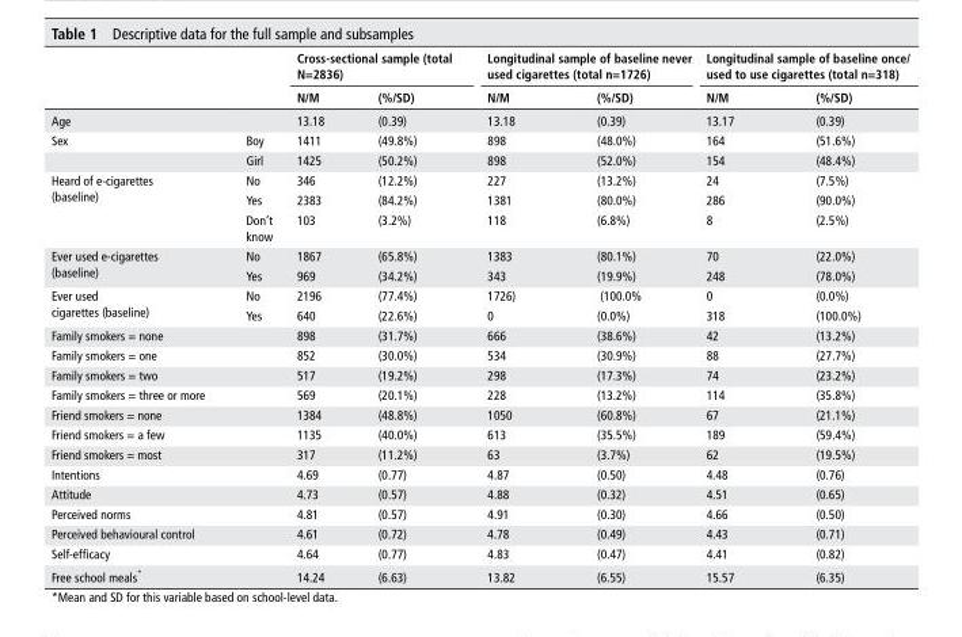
<table><thead><tr><td rowspan="2"></td><td rowspan="2"></td><td colspan="2">Cross-sectional sample (total n=2836)</td><td colspan="2">Longitudinal sample of baseline never used cigarettes (total n=1726)</td><td colspan="2">Longitudinal sample of baseline once/ used to use cigarettes (total n=318)</td></tr><tr><td>n/M</td><td>(%/sd)</td><td>n/M</td><td>(%/sd)</td><td>n/M</td><td>(%/sd)</td></tr></thead><tbody><tr><td>Age</td><td></td><td>13.18</td><td>(0.39)</td><td>13.18</td><td>(0.39)</td><td>13.17</td><td>(0.39)</td></tr><tr><td rowspan="2">Sex</td><td>Boy</td><td>1411</td><td>(49.8%)</td><td>898</td><td>(48.0%)</td><td>164</td><td>(51.6%)</td></tr><tr><td>Girl</td><td>1425</td><td>(50.2%)</td><td>898</td><td>(52.0%)</td><td>154</td><td>(48.4%)</td></tr><tr><td rowspan="3">Heard of e-cigarettes (baseline)</td><td>No</td><td>346</td><td>(12.2%)</td><td>227</td><td>(13.2%)</td><td>24</td><td>(7.5%)</td></tr><tr><td>Yes</td><td>2383</td><td>(84.2%)</td><td>1381</td><td>(80.0%)</td><td>286</td><td>(90.0%)</td></tr><tr><td>Don’t know</td><td>103</td><td>(3.2%)</td><td>118</td><td>(6.8%)</td><td>8</td><td>(2.5%)</td></tr><tr><td rowspan="2">Ever used e-cigarettes (baseline)</td><td>No</td><td>1867</td><td>(65.8%)</td><td>1383</td><td>(80.1%)</td><td>70</td><td>(22.0%)</td></tr><tr><td>Yes</td><td>969</td><td>(34.2%)</td><td>343</td><td>(19.9%)</td><td>248</td><td>(78.0%)</td></tr><tr><td rowspan="2">Ever used cigarettes (baseline)</td><td>No</td><td>2196</td><td>(77.4%)</td><td>1726)</td><td>(100.0%</td><td>0</td><td>(0.0%)</td></tr><tr><td>Yes</td><td>640</td><td>(22.6%)</td><td>0</td><td>(0.0%)</td><td>318</td><td>(100.0%)</td></tr><tr><td>Family smokers = none</td><td></td><td>898</td><td>(31.7%)</td><td>666</td><td>(38.6%)</td><td>42</td><td>(13.2%)</td></tr><tr><td>Family smokers = one</td><td></td><td>852</td><td>(30.0%)</td><td>534</td><td>(30.9%)</td><td>88</td><td>(27.7%)</td></tr><tr><td>Family smokers = two</td><td></td><td>517</td><td>(19.2%)</td><td>298</td><td>(17.3%)</td><td>74</td><td>(23.2%)</td></tr><tr><td>Family smokers = three or more</td><td></td><td>569</td><td>(20.1%)</td><td>228</td><td>(13.2%)</td><td>114</td><td>(35.8%)</td></tr><tr><td>Friend smokers = none</td><td></td><td>1384</td><td>(48.8%)</td><td>1050</td><td>(60.8%)</td><td>67</td><td>(21.1%)</td></tr><tr><td>Friend smokers = a few</td><td></td><td>1135</td><td>(40.0%)</td><td>613</td><td>(35.5%)</td><td>189</td><td>(59.4%)</td></tr><tr><td>Friend smokers = most</td><td></td><td>317</td><td>(11.2%)</td><td>63</td><td>(3.7%)</td><td>62</td><td>(19.5%)</td></tr><tr><td>Intentions</td><td></td><td>4.69</td><td>(0.77)</td><td>4.87</td><td>(0.50)</td><td>4.48</td><td>(0.76)</td></tr><tr><td>Attitude</td><td></td><td>4.73</td><td>(0.57)</td><td>4.88</td><td>(0.32)</td><td>4.51</td><td>(0.65)</td></tr><tr><td>Perceived norms</td><td></td><td>4.81</td><td>(0.57)</td><td>4.91</td><td>(0.30)</td><td>4.66</td><td>(0.50)</td></tr><tr><td>Perceived behavioural control</td><td></td><td>4.61</td><td>(0.72)</td><td>4.78</td><td>(0.49)</td><td>4.43</td><td>(0.71)</td></tr><tr><td>Self-efficacy</td><td></td><td>4.64</td><td>(0.77)</td><td>4.83</td><td>(0.47)</td><td>4.41</td><td>(0.82)</td></tr><tr><td>Free school meals*</td><td></td><td>14.24</td><td>(6.63)</td><td>13.82</td><td>(6.55)</td><td>15.57</td><td>(6.35)</td></tr></tbody></table>